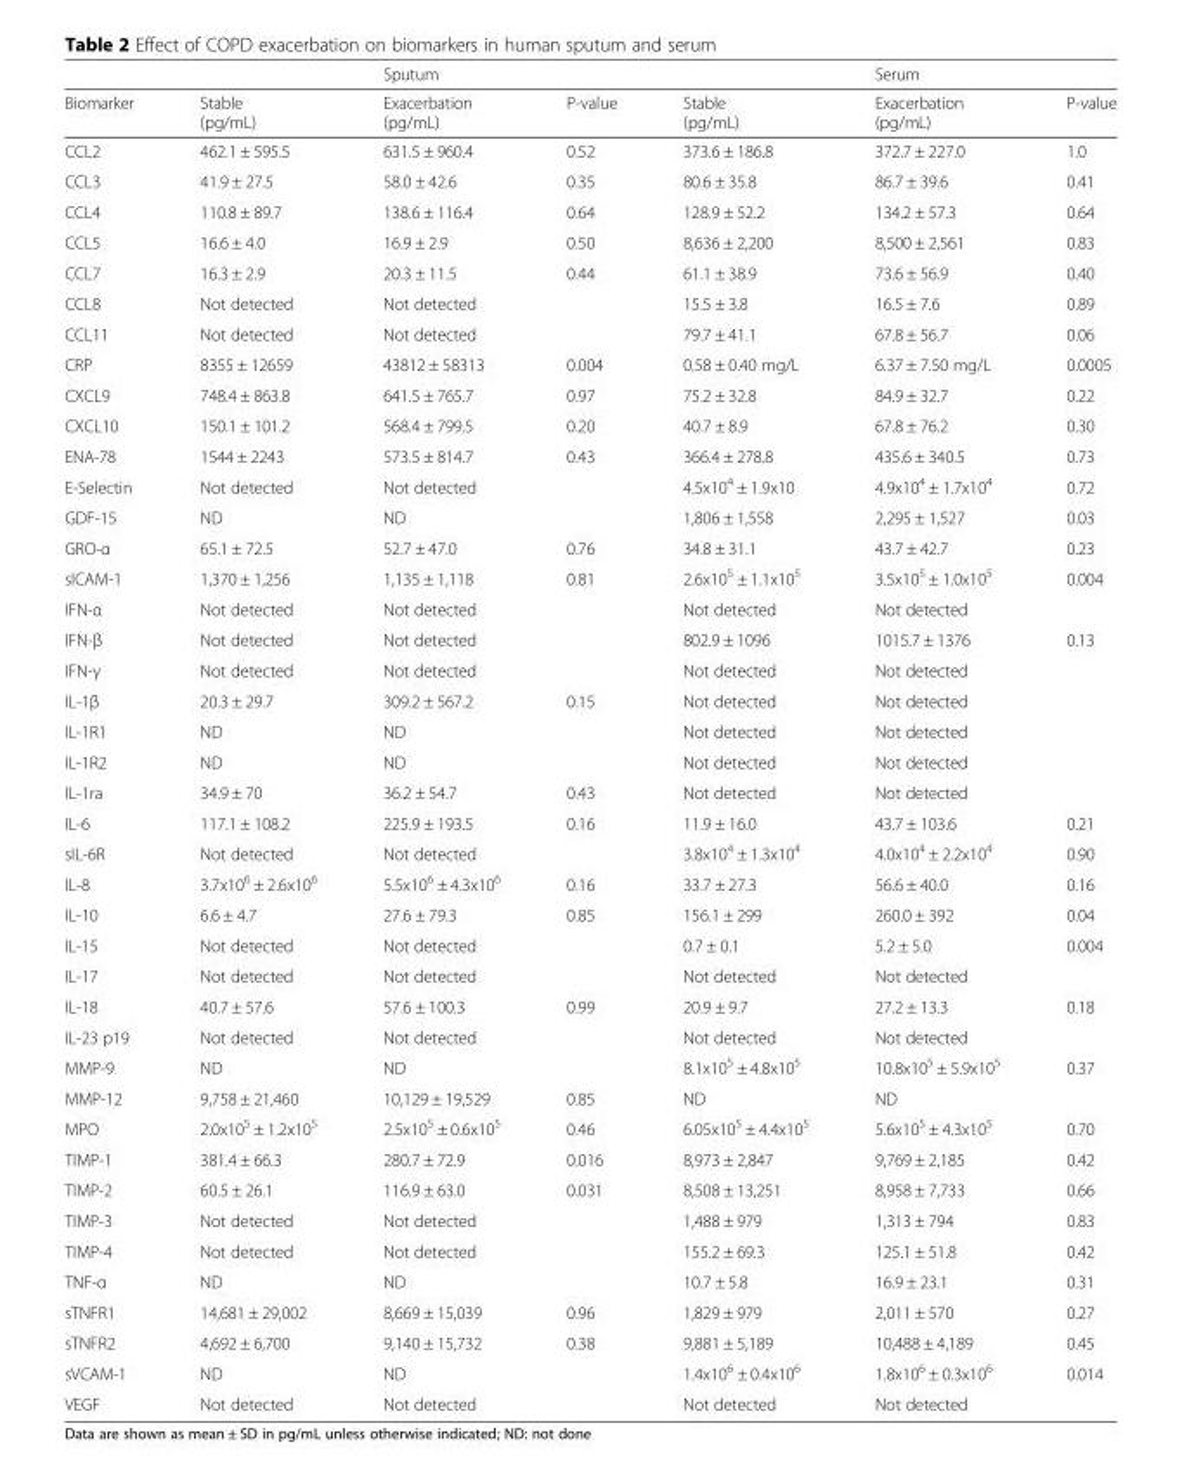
<table><thead><tr><td rowspan="2">Biomarker</td><td rowspan="2">Stable (pg/mL)</td><td rowspan="2">Sputum Exacerbation (pg/mL)</td><td rowspan="2">P-value</td><td rowspan="2">Stable (pg/mL)</td><td rowspan="2">Serum Exacerbation (pg/mL)</td><td rowspan="2">P-value</td></tr><tr></tr></thead><tbody><tr><td>CCL2</td><td>462.1 ± 595.5</td><td>631.5 ± 960.4</td><td>0.52</td><td>373.6 ± 186.8</td><td>372.7 ± 227.0</td><td>1.0</td></tr><tr><td>CCL3</td><td>41.9 ± 27.5</td><td>58.0 ± 42.6</td><td>0.35</td><td>80.6 ± 35.8</td><td>86.7 ± 39.6</td><td>0.41</td></tr><tr><td>CCL4</td><td>110.8 ± 89.7</td><td>138.6 ± 116.4</td><td>0.64</td><td>128.9 ± 52.2</td><td>134.2 ± 57.3</td><td>0.64</td></tr><tr><td>CCL5</td><td>16.6 ± 4.0</td><td>16.9 ± 2.9</td><td>0.50</td><td>8,636 ± 2,200</td><td>8,500 ± 2,561</td><td>0.83</td></tr><tr><td>CCL7</td><td>16.3 ± 2.9</td><td>20.3 ± 11.5</td><td>0.44</td><td>61.1 ± 38.9</td><td>73.6 ± 56.9</td><td>0.40</td></tr><tr><td>CCL8</td><td>Not detected</td><td>Not detected</td><td></td><td>15.5 ± 3.8</td><td>16.5 ± 7.6</td><td>0.89</td></tr><tr><td>CCL11</td><td>Not detected</td><td>Not detected</td><td></td><td>79.7 ± 41.1</td><td>67.8 ± 56.7</td><td>0.06</td></tr><tr><td>CRP</td><td>8355 ± 12659</td><td>43812 ± 58313</td><td>0.004</td><td>0.58 ± 0.40 mg/L</td><td>6.37 ± 7.50 mg/L</td><td>0.0005</td></tr><tr><td>CXCL9</td><td>748.4 ± 863.8</td><td>641.5 ± 765.7</td><td>0.97</td><td>75.2 ± 32.8</td><td>84.9 ± 32.7</td><td>0.22</td></tr><tr><td>CXCL10</td><td>150.1 ± 101.2</td><td>568.4 ± 799.5</td><td>0.20</td><td>40.7 ± 8.9</td><td>67.8 ± 76.2</td><td>0.30</td></tr><tr><td>ENA-78</td><td>1544 ± 2243</td><td>573.5 ± 814.7</td><td>0.43</td><td>366.4 ± 278.8</td><td>435.6 ± 340.5</td><td>0.73</td></tr><tr><td>E-Selectin</td><td>Not detected</td><td>Not detected</td><td></td><td>4.5x10<sup>4</sup> ± 1.9x10</td><td>4.9x10<sup>4</sup> ± 1.7x10<sup>4</sup></td><td>0.72</td></tr><tr><td>GDF-15</td><td>ND</td><td>ND</td><td></td><td>1,806 ± 1,558</td><td>2,295 ± 1,527</td><td>0.03</td></tr><tr><td>GRO-α</td><td>65.1 ± 72.5</td><td>52.7 ± 47.0</td><td>0.76</td><td>34.8 ± 31.1</td><td>43.7 ± 42.7</td><td>0.23</td></tr><tr><td>sICAM-1</td><td>1,370 ± 1,256</td><td>1,135 ± 1,118</td><td>0.81</td><td>2.6x10<sup>5</sup> ± 1.1x10<sup>5</sup></td><td>3.5x10<sup>5</sup> ± 1.0x10<sup>5</sup></td><td>0.004</td></tr><tr><td>IFN-α</td><td>Not detected</td><td>Not detected</td><td></td><td>Not detected</td><td>Not detected</td><td></td></tr><tr><td>IFN-β</td><td>Not detected</td><td>Not detected</td><td></td><td>802.9 ± 1096</td><td>1015.7 ± 1376</td><td>0.13</td></tr><tr><td>IFN-γ</td><td>Not detected</td><td>Not detected</td><td></td><td>Not detected</td><td>Not detected</td><td></td></tr><tr><td>IL-1β</td><td>20.3 ± 29.7</td><td>309.2 ± 567.2</td><td>0.15</td><td>Not detected</td><td>Not detected</td><td></td></tr><tr><td>IL-1R1</td><td>ND</td><td>ND</td><td></td><td>Not detected</td><td>Not detected</td><td></td></tr><tr><td>IL-1R2</td><td>ND</td><td>ND</td><td></td><td>Not detected</td><td>Not detected</td><td></td></tr><tr><td>IL-1ra</td><td>34.9 ± 70</td><td>36.2 ± 54.7</td><td>0.43</td><td>Not detected</td><td>Not detected</td><td></td></tr><tr><td>IL-6</td><td>117.1 ± 108.2</td><td>225.9 ± 193.5</td><td>0.16</td><td>11.9 ± 16.0</td><td>43.7 ± 103.6</td><td>0.21</td></tr><tr><td>sIL-6R</td><td>Not detected</td><td>Not detected</td><td></td><td>3.8x10<sup>4</sup> ± 1.3x10<sup>4</sup></td><td>4.0x10<sup>4</sup> ± 2.2x10<sup>4</sup></td><td>0.90</td></tr><tr><td>IL-8</td><td>3.7x10<sup>6</sup> ± 2.6x10<sup>6</sup></td><td>5.5x10<sup>6</sup> ± 4.3x10<sup>6</sup></td><td>0.16</td><td>33.7 ± 27.3</td><td>56.6 ± 40.0</td><td>0.16</td></tr><tr><td>IL-10</td><td>6.6 ± 4.7</td><td>27.6 ± 79.3</td><td>0.85</td><td>156.1 ± 299</td><td>260.0 ± 392</td><td>0.04</td></tr><tr><td>IL-15</td><td>Not detected</td><td>Not detected</td><td></td><td>0.7 ± 0.1</td><td>5.2 ± 5.0</td><td>0.004</td></tr><tr><td>IL-17</td><td>Not detected</td><td>Not detected</td><td></td><td>Not detected</td><td>Not detected</td><td></td></tr><tr><td>IL-18</td><td>40.7 ± 57.6</td><td>57.6 ± 100.3</td><td>0.99</td><td>20.9 ± 9.7</td><td>27.2 ± 13.3</td><td>0.18</td></tr><tr><td>IL-23 p19</td><td>Not detected</td><td>Not detected</td><td></td><td>Not detected</td><td>Not detected</td><td></td></tr><tr><td>MMP-9</td><td>ND</td><td>ND</td><td></td><td>8.1x10<sup>5</sup> ± 4.8x10<sup>5</sup></td><td>10.8x10<sup>5</sup> ± 5.9x10<sup>5</sup></td><td>0.37</td></tr><tr><td>MMP-12</td><td>9,758 ± 21,460</td><td>10,129 ± 19,529</td><td>0.85</td><td>ND</td><td>ND</td><td></td></tr><tr><td>MPO</td><td>2.0x10<sup>5</sup> ± 1.2x10<sup>5</sup></td><td>2.5x10<sup>5</sup> ± 0.6x10<sup>5</sup></td><td>0.46</td><td>6.05x10<sup>5</sup> ± 4.4x10<sup>5</sup></td><td>5.6x10<sup>5</sup> ± 4.3x10<sup>5</sup></td><td>0.70</td></tr><tr><td>TIMP-1</td><td>381.4 ± 66.3</td><td>280.7 ± 72.9</td><td>0.016</td><td>8,973 ± 2,847</td><td>9,769 ± 2,185</td><td>0.42</td></tr><tr><td>TIMP-2</td><td>60.5 ± 26.1</td><td>116.9 ± 63.0</td><td>0.031</td><td>8,508 ± 13,251</td><td>8,958 ± 7,733</td><td>0.66</td></tr><tr><td>TIMP-3</td><td>Not detected</td><td>Not detected</td><td></td><td>1,488 ± 979</td><td>1,313 ± 794</td><td>0.83</td></tr><tr><td>TIMP-4</td><td>Not detected</td><td>Not detected</td><td></td><td>155.2 ± 69.3</td><td>125.1 ± 51.8</td><td>0.42</td></tr><tr><td>TNF-α</td><td>ND</td><td>ND</td><td></td><td>10.7 ± 5.8</td><td>16.9 ± 23.1</td><td>0.31</td></tr><tr><td>sTNFR1</td><td>14,681 ± 29,002</td><td>8,669 ± 15,039</td><td>0.96</td><td>1,829 ± 979</td><td>2,011 ± 570</td><td>0.27</td></tr><tr><td>sTNFR2</td><td>4,692 ± 6,700</td><td>9,140 ± 15,732</td><td>0.38</td><td>9,881 ± 5,189</td><td>10,488 ± 4,189</td><td>0.45</td></tr><tr><td>sVCAM-1</td><td>ND</td><td>ND</td><td></td><td>1.4x10<sup>6</sup> ± 0.4x10<sup>6</sup></td><td>1.8x10<sup>6</sup> ± 0.3x10<sup>6</sup></td><td>0.014</td></tr><tr><td>VEGF</td><td>Not detected</td><td>Not detected</td><td></td><td>Not detected</td><td>Not detected</td><td></td></tr></tbody></table>